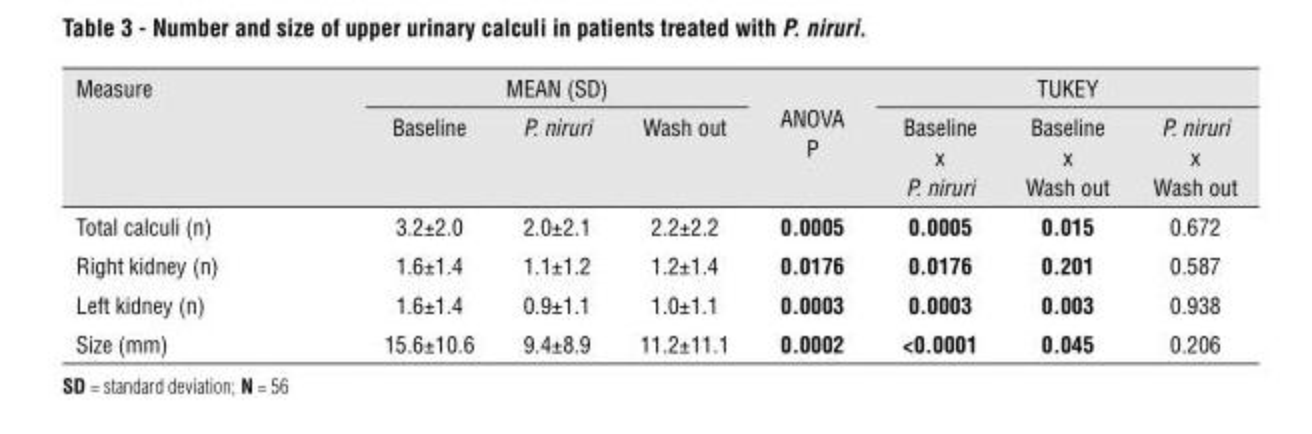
<table><thead><tr><td rowspan="2">Measure</td><td colspan="3">MEAN (SD)</td><td rowspan="2">ANOVA P</td><td colspan="3">TUKEY</td></tr><tr><td>Baseline</td><td>P. niruri</td><td>Wash out</td><td>Baseline x P. niruri</td><td>Baseline x Wash out</td><td>P. niruri x Wash out</td></tr></thead><tbody><tr><td>Total calculi (n)</td><td>3.2±2.0</td><td>2.0±2.1</td><td>2.2±2.2</td><td>0.0005</td><td>0.0005</td><td>0.015</td><td>0.672</td></tr><tr><td>Right kidney (n)</td><td>1.6±1.4</td><td>1.1±1.2</td><td>1.2±1.4</td><td>0.0176</td><td>0.0176</td><td>0.201</td><td>0.587</td></tr><tr><td>Left kidney (n)</td><td>1.6±1.4</td><td>0.9±1.1</td><td>1.0±1.1</td><td>0.0003</td><td>0.0003</td><td>0.003</td><td>0.938</td></tr><tr><td>Size (mm)</td><td>15.6±10.6</td><td>9.4±8.9</td><td>11.2±11.1</td><td>0.0002</td><td>&lt;0.0001</td><td>0.045</td><td>0.206</td></tr></tbody></table>